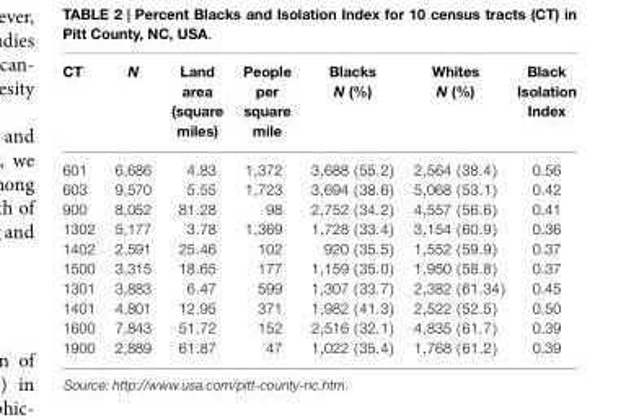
<table><thead><tr><td>CT</td><td>N</td><td>Land area (square miles)</td><td>People per square mile</td><td>Blacks N (%)</td><td>Whites N (%)</td><td>Black Isolation Index</td></tr></thead><tbody><tr><td>601</td><td>6,686</td><td>4.83</td><td>1,372</td><td>3,688 (55.2)</td><td>2,564 (38.4)</td><td>0.56</td></tr><tr><td>603</td><td>9,570</td><td>5.55</td><td>1,723</td><td>3,694 (38.6)</td><td>5,068 (53.1)</td><td>0.42</td></tr><tr><td>900</td><td>8,052</td><td>81.28</td><td>98</td><td>2,752 (34.2)</td><td>4,557 (56.6)</td><td>0.41</td></tr><tr><td>1302</td><td>5,177</td><td>3.78</td><td>1,369</td><td>1,728 (33.4)</td><td>3,154 (60.9)</td><td>0.36</td></tr><tr><td>1402</td><td>2,591</td><td>25.46</td><td>102</td><td>920 (35.5)</td><td>1,552 (59.9)</td><td>0.37</td></tr><tr><td>1500</td><td>3,315</td><td>18.65</td><td>177</td><td>1,159 (35.0)</td><td>1,950 (58.8)</td><td>0.37</td></tr><tr><td>1301</td><td>3,883</td><td>6.47</td><td>599</td><td>1,307 (33.7)</td><td>2,382 (61.34)</td><td>0.45</td></tr><tr><td>1401</td><td>4,801</td><td>12.95</td><td>371</td><td>1,982 (41.3)</td><td>2,522 (52.5)</td><td>0.50</td></tr><tr><td>1600</td><td>7,843</td><td>51.72</td><td>152</td><td>2,516 (32.1)</td><td>4,835 (61.7)</td><td>0.39</td></tr><tr><td>1900</td><td>2,889</td><td>61.87</td><td>47</td><td>1,022 (35.4)</td><td>1,768 (61.2)</td><td>0.39</td></tr></tbody></table>